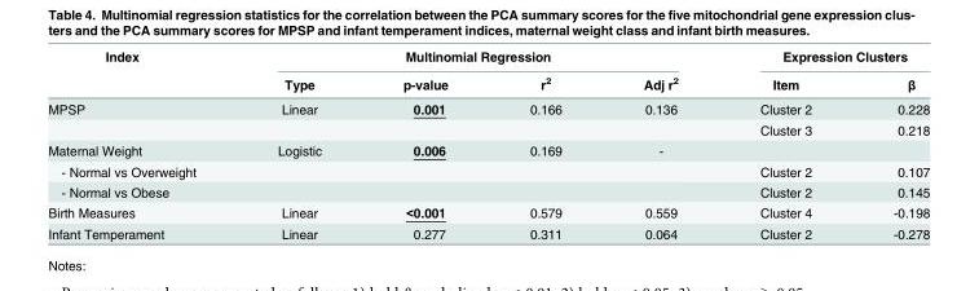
<table><thead><tr><td rowspan="2">Index</td><td colspan="4">Multinomial Regression</td><td colspan="2">Expression Clusters</td></tr><tr><td>Type</td><td>p-value</td><td>r<sup>2</sup></td><td>Adj r<sup>2</sup></td><td>Item</td><td>β</td></tr></thead><tbody><tr><td rowspan="2">MPSP</td><td>Linear</td><td>0.001</td><td>0.166</td><td>0.136</td><td>Cluster 2</td><td>0.228</td></tr><tr><td></td><td></td><td></td><td></td><td>Cluster 3</td><td>0.218</td></tr><tr><td>Maternal Weight</td><td>Logistic</td><td>0.006</td><td>0.169</td><td>-</td><td></td><td></td></tr><tr><td>- Normal vs Overweight</td><td></td><td></td><td></td><td></td><td>Cluster 2</td><td>0.107</td></tr><tr><td>- Normal vs Obese</td><td></td><td></td><td></td><td></td><td>Cluster 2</td><td>0.145</td></tr><tr><td>Birth Measures</td><td>Linear</td><td>&lt;0.001</td><td>0.579</td><td>0.559</td><td>Cluster 4</td><td>-0.198</td></tr><tr><td>Infant Temperament</td><td>Linear</td><td>0.277</td><td>0.311</td><td>0.064</td><td>Cluster 2</td><td>-0.278</td></tr></tbody></table>